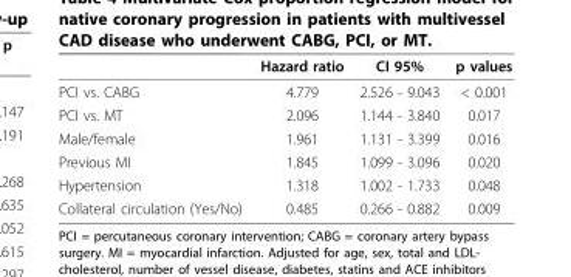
<table><thead><tr><td></td><td>Hazard ratio</td><td>CI 95%</td><td>p values</td></tr></thead><tbody><tr><td>PCI vs. CABG</td><td>4.779</td><td>2.526 - 9.043</td><td>&lt; 0.001</td></tr><tr><td>PCI vs. MT</td><td>2.096</td><td>1.144 - 3.840</td><td>0.017</td></tr><tr><td>Male/female</td><td>1.961</td><td>1.131 - 3.399</td><td>0.016</td></tr><tr><td>Previous MI</td><td>1.845</td><td>1.099 - 3.096</td><td>0.020</td></tr><tr><td>Hypertension</td><td>1.318</td><td>1.002 - 1.733</td><td>0.048</td></tr><tr><td>Collateral circulation (Yes/No)</td><td>0.485</td><td>0.266 - 0.882</td><td>0.009</td></tr></tbody></table>